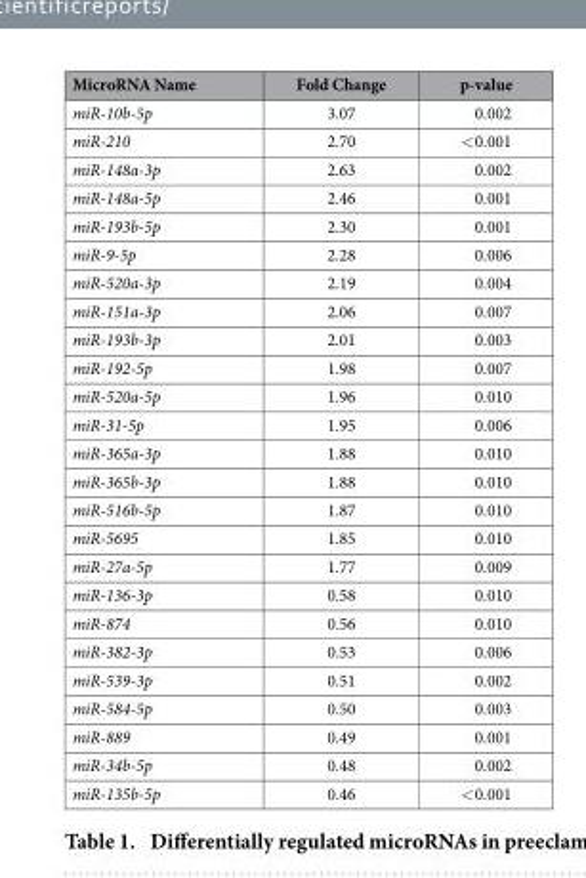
<table><thead><tr><td>MicroRNA Name</td><td>Fold Change</td><td>p-value</td></tr></thead><tbody><tr><td>miR-10b-5p</td><td>3.07</td><td>0.002</td></tr><tr><td>miR-210</td><td>2.70</td><td>&lt; 0.001</td></tr><tr><td>miR-148a-3p</td><td>2.63</td><td>0.002</td></tr><tr><td>miR-148a-5p</td><td>2.46</td><td>0.001</td></tr><tr><td>miR-193b-5p</td><td>2.30</td><td>0.001</td></tr><tr><td>miR-9-5p</td><td>2.28</td><td>0.006</td></tr><tr><td>miR-520a-3p</td><td>2.19</td><td>0.004</td></tr><tr><td>miR-151a-3p</td><td>2.06</td><td>0.007</td></tr><tr><td>miR-193b-3p</td><td>2.01</td><td>0.003</td></tr><tr><td>miR-192-5p</td><td>1.98</td><td>0.007</td></tr><tr><td>miR-520a-5p</td><td>1.96</td><td>0.010</td></tr><tr><td>miR-31-5p</td><td>1.95</td><td>0.006</td></tr><tr><td>miR-365a-3p</td><td>1.88</td><td>0.010</td></tr><tr><td>miR-365b-3p</td><td>1.88</td><td>0.010</td></tr><tr><td>miR-516b-5p</td><td>1.87</td><td>0.010</td></tr><tr><td>miR-5695</td><td>1.85</td><td>0.010</td></tr><tr><td>miR-27a-5p</td><td>1.77</td><td>0.009</td></tr><tr><td>miR-136-3p</td><td>0.58</td><td>0.010</td></tr><tr><td>miR-874</td><td>0.56</td><td>0.010</td></tr><tr><td>miR-382-3p</td><td>0.53</td><td>0.006</td></tr><tr><td>miR-539-3p</td><td>0.51</td><td>0.002</td></tr><tr><td>miR-584-5p</td><td>0.50</td><td>0.003</td></tr><tr><td>miR-889</td><td>0.49</td><td>0.001</td></tr><tr><td>miR-34b-5p</td><td>0.48</td><td>0.002</td></tr><tr><td>miR-135b-5p</td><td>0.46</td><td>&lt; 0.001</td></tr></tbody></table>